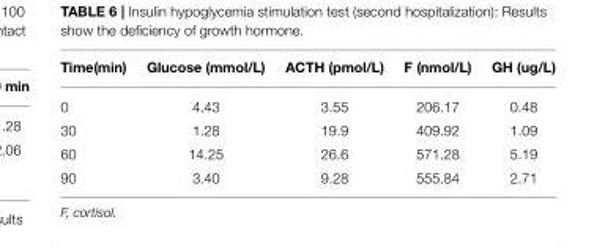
<table><thead><tr><td>Time(min)</td><td>Glucose (mmol/L)</td><td>ACTH (pmol/L)</td><td>F (nmol/L)</td><td>GH (ug/L)</td></tr></thead><tbody><tr><td>0</td><td>4.43</td><td>3.55</td><td>206.17</td><td>0.48</td></tr><tr><td>30</td><td>1.28</td><td>19.9</td><td>409.92</td><td>1.09</td></tr><tr><td>60</td><td>14.25</td><td>26.6</td><td>571.28</td><td>5.19</td></tr><tr><td>90</td><td>3.40</td><td>9.28</td><td>555.84</td><td>2.71</td></tr></tbody></table>